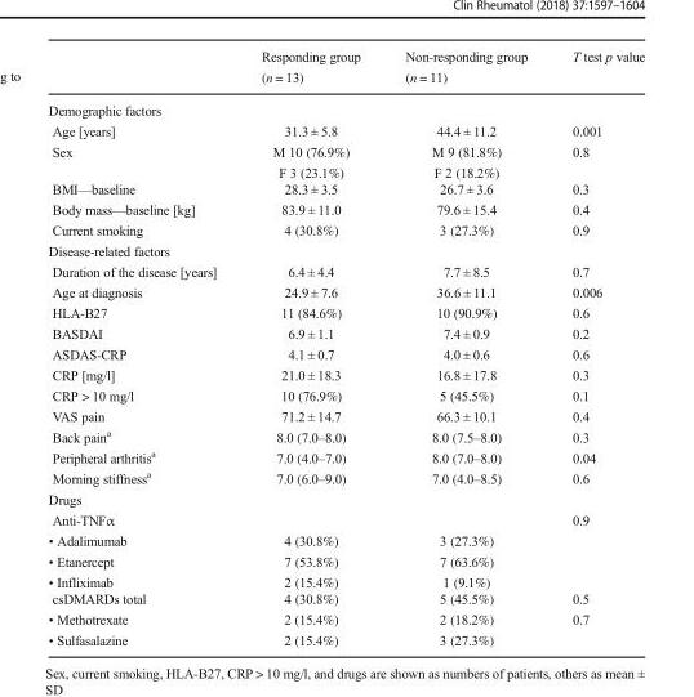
<table><thead><tr><td></td><td>Responding group (n = 13)</td><td>Non-responding group (n = 11)</td><td>T test p value</td></tr></thead><tbody><tr><td colspan="4">Demographic factors</td></tr><tr><td>Age [years]</td><td>31.3 ± 5.8</td><td>44.4 ± 11.2</td><td>0.001</td></tr><tr><td>Sex</td><td>M 10 (76.9%) F 3 (23.1%)</td><td>M 9 (81.8%) F 2 (18.2%)</td><td>0.8</td></tr><tr><td>BMI—baseline</td><td>28.3 ± 3.5</td><td>26.7 ± 3.6</td><td>0.3</td></tr><tr><td>Body mass—baseline [kg]</td><td>83.9 ± 11.0</td><td>79.6 ± 15.4</td><td>0.4</td></tr><tr><td>Current smoking</td><td>4 (30.8%)</td><td>3 (27.3%)</td><td>0.9</td></tr><tr><td colspan="4">Disease-related factors</td></tr><tr><td>Duration of the disease [years]</td><td>6.4 ± 4.4</td><td>7.7 ± 8.5</td><td>0.7</td></tr><tr><td>Age at diagnosis</td><td>24.9 ± 7.6</td><td>36.6 ± 11.1</td><td>0.006</td></tr><tr><td>HLA-B27</td><td>11 (84.6%)</td><td>10 (90.9%)</td><td>0.6</td></tr><tr><td>BASDAI</td><td>6.9 ± 1.1</td><td>7.4 ± 0.9</td><td>0.2</td></tr><tr><td>ASDAS-CRP</td><td>4.1 ± 0.7</td><td>4.0 ± 0.6</td><td>0.6</td></tr><tr><td>CRP [mg/l]</td><td>21.0 ± 18.3</td><td>16.8 ± 17.8</td><td>0.3</td></tr><tr><td>CRP &gt; 10 mg/l</td><td>10 (76.9%)</td><td>5 (45.5%)</td><td>0.1</td></tr><tr><td>VAS pain</td><td>71.2 ± 14.7</td><td>66.3 ± 10.1</td><td>0.4</td></tr><tr><td>Back pain<sup>a</sup></td><td>8.0 (7.0–8.0)</td><td>8.0 (7.5–8.0)</td><td>0.3</td></tr><tr><td>Peripheral arthritis<sup>a</sup></td><td>7.0 (4.0–7.0)</td><td>8.0 (7.0–8.0)</td><td>0.04</td></tr><tr><td>Morning stiffness<sup>a</sup></td><td>7.0 (6.0–9.0)</td><td>7.0 (4.0–8.5)</td><td>0.6</td></tr><tr><td colspan="4">Drugs</td></tr><tr><td>Anti-TNFα</td><td></td><td></td><td>0.9</td></tr><tr><td>• Adalimumab • Etanercept • Infliximab</td><td>4 (30.8%) 7 (53.8%) 2 (15.4%)</td><td>3 (27.3%) 7 (63.6%) 1 (9.1%)</td><td></td></tr><tr><td>csDMARDs total</td><td>4 (30.8%)</td><td>5 (45.5%)</td><td>0.5</td></tr><tr><td>• Methotrexate • Sulfasalazine</td><td>2 (15.4%) 2 (15.4%)</td><td>2 (18.2%) 3 (27.3%)</td><td>0.7</td></tr></tbody></table>